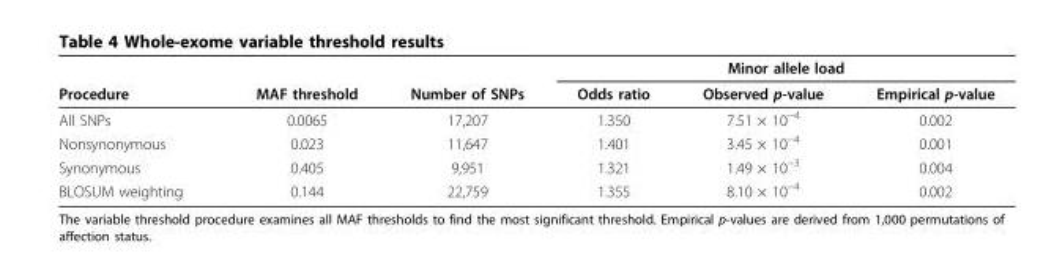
<table><thead><tr><td rowspan="2">Procedure</td><td rowspan="2">MAF threshold</td><td rowspan="2">Number of SNPs</td><td colspan="3">Minor allele load</td></tr><tr><td>Odds ratio</td><td>Observed p-value</td><td>Empirical p-value</td></tr></thead><tbody><tr><td>All SNPs</td><td>0.0065</td><td>17,207</td><td>1.350</td><td>7.51 × 10<sup>−4</sup></td><td>0.002</td></tr><tr><td>Nonsynonymous</td><td>0.023</td><td>11,647</td><td>1.401</td><td>3.45 × 10<sup>−4</sup></td><td>0.001</td></tr><tr><td>Synonymous</td><td>0.405</td><td>9,951</td><td>1.321</td><td>1.49 × 10<sup>−3</sup></td><td>0.004</td></tr><tr><td>BLOSUM weighting</td><td>0.144</td><td>22,759</td><td>1.355</td><td>8.10 × 10<sup>−4</sup></td><td>0.002</td></tr></tbody></table>